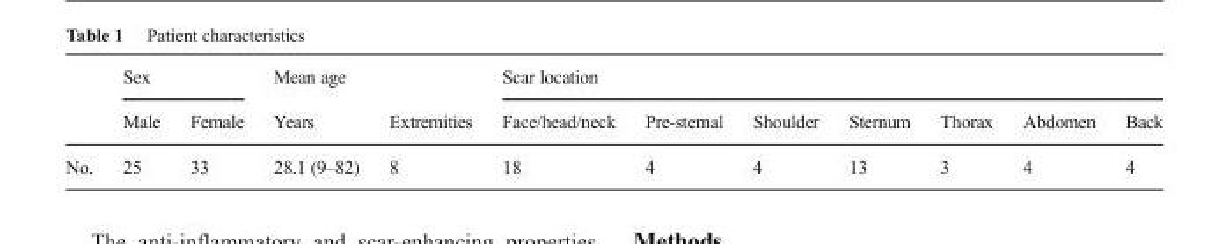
<table><thead><tr><td rowspan="2"></td><td colspan="2">Sex</td><td rowspan="2">Mean age Years</td><td rowspan="2">Extremities</td><td colspan="7">Scar location</td></tr><tr><td>Male</td><td>Female</td><td>Face/head/neck</td><td>Pre-sternal</td><td>Shoulder</td><td>Sternum</td><td>Thorax</td><td>Abdomen</td><td>Back</td></tr></thead><tbody><tr><td>No.</td><td>25</td><td>33</td><td>28.1 (9–82)</td><td>8</td><td>18</td><td>4</td><td>4</td><td>13</td><td>3</td><td>4</td><td>4</td></tr></tbody></table>